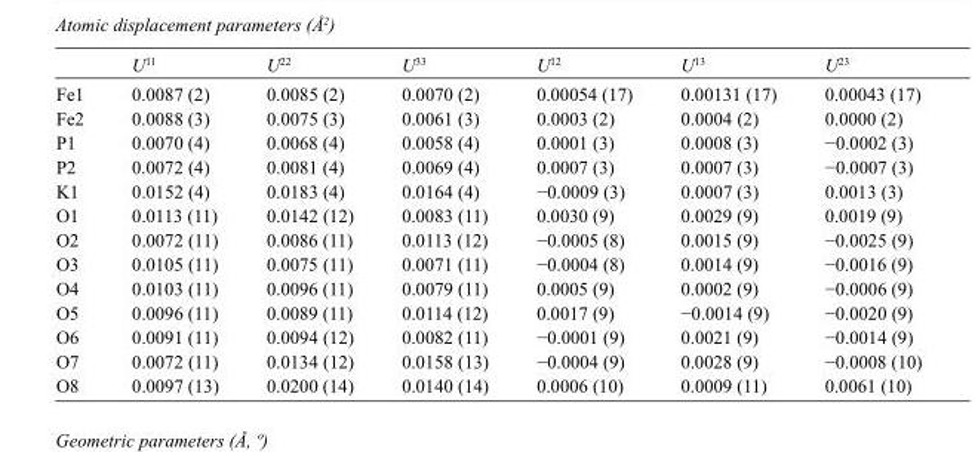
<table><thead><tr><td></td><td>U<sup>11</sup></td><td>U<sup>22</sup></td><td>U<sup>33</sup></td><td>U<sup>12</sup></td><td>U<sup>13</sup></td><td>U<sup>23</sup></td></tr></thead><tbody><tr><td>Fe1</td><td>0.0087 (2)</td><td>0.0085 (2)</td><td>0.0070 (2)</td><td>0.00054 (17)</td><td>0.00131 (17)</td><td>0.00043 (17)</td></tr><tr><td>Fe2</td><td>0.0088 (3)</td><td>0.0075 (3)</td><td>0.0061 (3)</td><td>0.0003 (2)</td><td>0.0004 (2)</td><td>0.0000 (2)</td></tr><tr><td>P1</td><td>0.0070 (4)</td><td>0.0068 (4)</td><td>0.0058 (4)</td><td>0.0001 (3)</td><td>0.0008 (3)</td><td>−0.0002 (3)</td></tr><tr><td>P2</td><td>0.0072 (4)</td><td>0.0081 (4)</td><td>0.0069 (4)</td><td>0.0007 (3)</td><td>0.0007 (3)</td><td>−0.0007 (3)</td></tr><tr><td>K1</td><td>0.0152 (4)</td><td>0.0183 (4)</td><td>0.0164 (4)</td><td>−0.0009 (3)</td><td>0.0007 (3)</td><td>0.0013 (3)</td></tr><tr><td>O1</td><td>0.0113 (11)</td><td>0.0142 (12)</td><td>0.0083 (11)</td><td>0.0030 (9)</td><td>0.0029 (9)</td><td>0.0019 (9)</td></tr><tr><td>O2</td><td>0.0072 (11)</td><td>0.0086 (11)</td><td>0.0113 (12)</td><td>−0.0005 (8)</td><td>0.0015 (9)</td><td>−0.0025 (9)</td></tr><tr><td>O3</td><td>0.0105 (11)</td><td>0.0075 (11)</td><td>0.0071 (11)</td><td>−0.0004 (8)</td><td>0.0014 (9)</td><td>−0.0016 (9)</td></tr><tr><td>O4</td><td>0.0103 (11)</td><td>0.0096 (11)</td><td>0.0079 (11)</td><td>0.0005 (9)</td><td>0.0002 (9)</td><td>−0.0006 (9)</td></tr><tr><td>O5</td><td>0.0096 (11)</td><td>0.0089 (11)</td><td>0.0114 (12)</td><td>0.0017 (9)</td><td>−0.0014 (9)</td><td>−0.0020 (9)</td></tr><tr><td>O6</td><td>0.0091 (11)</td><td>0.0094 (12)</td><td>0.0082 (11)</td><td>−0.0001 (9)</td><td>0.0021 (9)</td><td>−0.0014 (9)</td></tr><tr><td>O7</td><td>0.0072 (11)</td><td>0.0134 (12)</td><td>0.0158 (13)</td><td>−0.0004 (9)</td><td>0.0028 (9)</td><td>−0.0008 (10)</td></tr><tr><td>O8</td><td>0.0097 (13)</td><td>0.0200 (14)</td><td>0.0140 (14)</td><td>0.0006 (10)</td><td>0.0009 (11)</td><td>0.0061 (10)</td></tr></tbody></table>